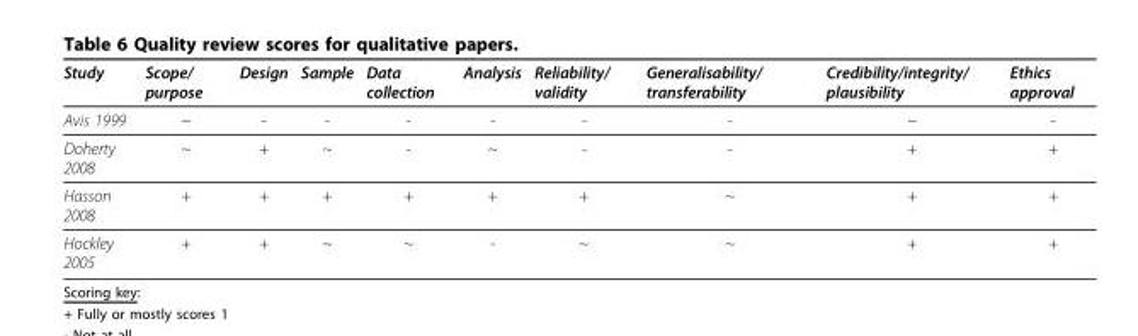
<table><thead><tr><td>Study</td><td>Scope/ purpose</td><td>Design</td><td>Sample</td><td>Data collection</td><td>Analysis</td><td>Reliability/ validity</td><td>Generalisability/ transferability</td><td>Credibility/integrity/ plausibility</td><td>Ethics approval</td></tr></thead><tbody><tr><td>Avis 1999</td><td>~</td><td>-</td><td>-</td><td>-</td><td>-</td><td>-</td><td>-</td><td>~</td><td>-</td></tr><tr><td>Doherty 2008</td><td>~</td><td>+</td><td>~</td><td>-</td><td>~</td><td>-</td><td>-</td><td>+</td><td>+</td></tr><tr><td>Hasson 2008</td><td>+</td><td>+</td><td>+</td><td>+</td><td>+</td><td>+</td><td>~</td><td>+</td><td>+</td></tr><tr><td>Hockley 2005</td><td>+</td><td>+</td><td>~</td><td>~</td><td>-</td><td>~</td><td>~</td><td>+</td><td>+</td></tr></tbody></table>